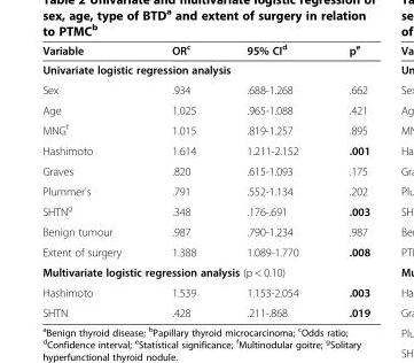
<table><thead><tr><td>Variable</td><td>OR<sup>c</sup></td><td>95% CI<sup>d</sup></td><td>p<sup>e</sup></td></tr></thead><tbody><tr><td colspan="4">Univariate logistic regression analysis</td></tr><tr><td>Sex</td><td>.934</td><td>.688-1.268</td><td>.662</td></tr><tr><td>Age</td><td>1.025</td><td>.965-1.088</td><td>.421</td></tr><tr><td>MNG<sup>f</sup></td><td>1.015</td><td>.819-1.257</td><td>.895</td></tr><tr><td>Hashimoto</td><td>1.614</td><td>1.211-2.152</td><td>.001</td></tr><tr><td>Graves</td><td>.820</td><td>.615-1.093</td><td>.175</td></tr><tr><td>Plummer&#x27;s</td><td>.791</td><td>.552-1.134</td><td>.202</td></tr><tr><td>SHTN<sup>g</sup></td><td>.348</td><td>.176-.691</td><td>.003</td></tr><tr><td>Benign tumour</td><td>.987</td><td>.790-1.234</td><td>.987</td></tr><tr><td>Extent of surgery</td><td>1.388</td><td>1.089-1.770</td><td>.008</td></tr><tr><td colspan="4">Multivariate logistic regression analysis (p &lt; 0.10)</td></tr><tr><td>Hashimoto</td><td>1.539</td><td>1.153-2.054</td><td>.003</td></tr><tr><td>SHTN</td><td>.428</td><td>.211-.868</td><td>.019</td></tr></tbody></table>